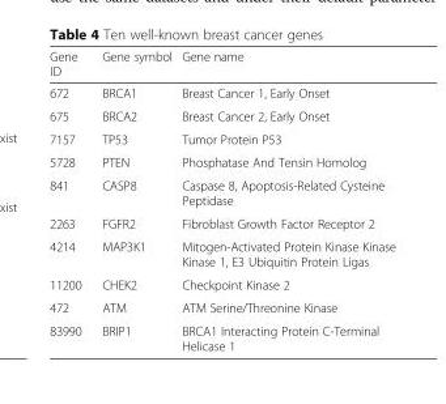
<table><thead><tr><td>Gene ID</td><td>Gene symbol</td><td>Gene name</td></tr></thead><tbody><tr><td>672</td><td>BRCA1</td><td>Breast Cancer 1, Early Onset</td></tr><tr><td>675</td><td>BRCA2</td><td>Breast Cancer 2, Early Onset</td></tr><tr><td>7157</td><td>TP53</td><td>Tumor Protein P53</td></tr><tr><td>5728</td><td>PTEN</td><td>Phosphatase And Tensin Homolog</td></tr><tr><td>841</td><td>CASP8</td><td>Caspase 8, Apoptosis-Related Cysteine Peptidase</td></tr><tr><td>2263</td><td>FGFR2</td><td>Fibroblast Growth Factor Receptor 2</td></tr><tr><td>4214</td><td>MAP3K1</td><td>Mitogen-Activated Protein Kinase Kinase Kinase 1, E3 Ubiquitin Protein Ligas</td></tr><tr><td>11200</td><td>CHEK2</td><td>Checkpoint Kinase 2</td></tr><tr><td>472</td><td>ATM</td><td>ATM Serine/Threonine Kinase</td></tr><tr><td>83990</td><td>BRIP1</td><td>BRCA1 Interacting Protein C-Terminal Helicase 1</td></tr></tbody></table>